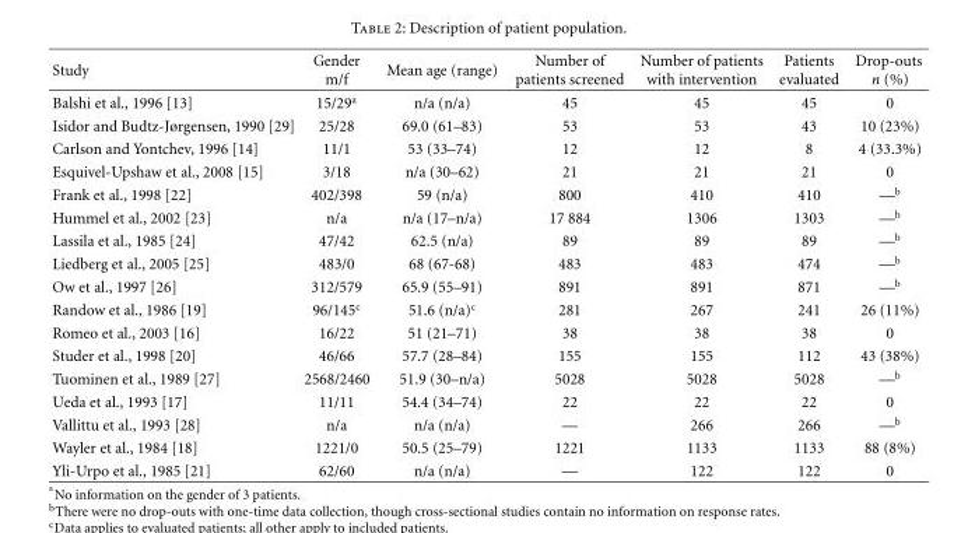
<table><thead><tr><td>Study</td><td>Gender m/f</td><td>Mean age (range)</td><td>Number of patients screened</td><td>Number of patients with intervention</td><td>Patients evaluated</td><td>Drop-outs n (%)</td></tr></thead><tbody><tr><td>Balshi et al., 1996 [13]</td><td>15/29<sup>a</sup></td><td>n/a (n/a)</td><td>45</td><td>45</td><td>45</td><td>0</td></tr><tr><td>Isidor and Budtz-Jørgensen, 1990 [29]</td><td>25/28</td><td>69.0 (61–83)</td><td>53</td><td>53</td><td>43</td><td>10 (23%)</td></tr><tr><td>Carlson and Yontchev, 1996 [14]</td><td>11/1</td><td>53 (33–74)</td><td>12</td><td>12</td><td>8</td><td>4 (33.3%)</td></tr><tr><td>Esquivel-Upshaw et al., 2008 [15]</td><td>3/18</td><td>n/a (30–62)</td><td>21</td><td>21</td><td>21</td><td>0</td></tr><tr><td>Frank et al., 1998 [22]</td><td>402/398</td><td>59 (n/a)</td><td>800</td><td>410</td><td>410</td><td>—<sup>b</sup></td></tr><tr><td>Hummel et al., 2002 [23]</td><td>n/a</td><td>n/a (17–n/a)</td><td>17 884</td><td>1306</td><td>1303</td><td>—<sup>b</sup></td></tr><tr><td>Lassila et al., 1985 [24]</td><td>47/42</td><td>62.5 (n/a)</td><td>89</td><td>89</td><td>89</td><td>—<sup>b</sup></td></tr><tr><td>Liedberg et al., 2005 [25]</td><td>483/0</td><td>68 (67-68)</td><td>483</td><td>483</td><td>474</td><td>—<sup>b</sup></td></tr><tr><td>Ow et al., 1997 [26]</td><td>312/579</td><td>65.9 (55–91)</td><td>891</td><td>891</td><td>871</td><td>—<sup>b</sup></td></tr><tr><td>Randow et al., 1986 [19]</td><td>96/145<sup>c</sup></td><td>51.6 (n/a)<sup>c</sup></td><td>281</td><td>267</td><td>241</td><td>26 (11%)</td></tr><tr><td>Romeo et al., 2003 [16]</td><td>16/22</td><td>51 (21–71)</td><td>38</td><td>38</td><td>38</td><td>0</td></tr><tr><td>Studer et al., 1998 [20]</td><td>46/66</td><td>57.7 (28–84)</td><td>155</td><td>155</td><td>112</td><td>43 (38%)</td></tr><tr><td>Tuominen et al., 1989 [27]</td><td>2568/2460</td><td>51.9 (30–n/a)</td><td>5028</td><td>5028</td><td>5028</td><td>—<sup>b</sup></td></tr><tr><td>Ueda et al., 1993 [17]</td><td>11/11</td><td>54.4 (34–74)</td><td>22</td><td>22</td><td>22</td><td>0</td></tr><tr><td>Vallittu et al., 1993 [28]</td><td>n/a</td><td>n/a (n/a)</td><td>—</td><td>266</td><td>266</td><td>—<sup>b</sup></td></tr><tr><td>Wayler et al., 1984 [18]</td><td>1221/0</td><td>50.5 (25–79)</td><td>1221</td><td>1133</td><td>1133</td><td>88 (8%)</td></tr><tr><td>Yli-Urpo et al., 1985 [21]</td><td>62/60</td><td>n/a (n/a)</td><td>—</td><td>122</td><td>122</td><td>0</td></tr></tbody></table>